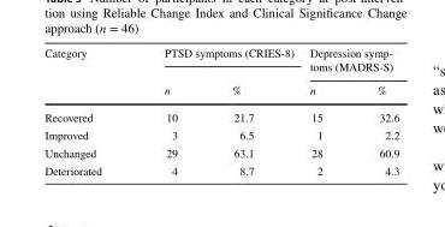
<table><thead><tr><td rowspan="2">Category</td><td colspan="2">PTSD symptoms (CRIES-8)</td><td colspan="2">Depression symp- toms (MADRS-S)</td></tr><tr><td>n</td><td>%</td><td>n</td><td>%</td></tr></thead><tbody><tr><td>Recovered</td><td>10</td><td>21.7</td><td>15</td><td>32.6</td></tr><tr><td>Improved</td><td>3</td><td>6.5</td><td>1</td><td>2.2</td></tr><tr><td>Unchanged</td><td>29</td><td>63.1</td><td>28</td><td>60.9</td></tr><tr><td>Deteriorated</td><td>4</td><td>8.7</td><td>2</td><td>4.3</td></tr></tbody></table>